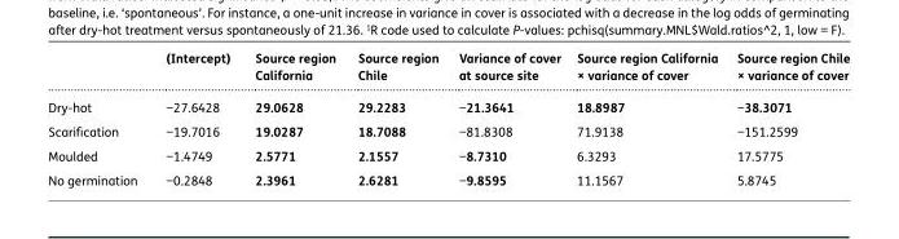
<table><thead><tr><td></td><td>(Intercept)</td><td>Source region California</td><td>Source region Chile</td><td>Variance of cover at source site</td><td>Source region California × variance of cover</td><td>Source region Chile × variance of cover</td></tr></thead><tbody><tr><td>Dry-hot</td><td>−27.6428</td><td>29.0628</td><td>29.2283</td><td>−21.3641</td><td>18.8987</td><td>−38.3071</td></tr><tr><td>Scarification</td><td>−19.7016</td><td>19.0287</td><td>18.7088</td><td>−81.8308</td><td>71.9138</td><td>−151.2599</td></tr><tr><td>Moulded</td><td>−1.4749</td><td>2.5771</td><td>2.1557</td><td>−8.7310</td><td>6.3293</td><td>17.5775</td></tr><tr><td>No germination</td><td>−0.2848</td><td>2.3961</td><td>2.6281</td><td>−9.8595</td><td>11.1567</td><td>5.8745</td></tr></tbody></table>